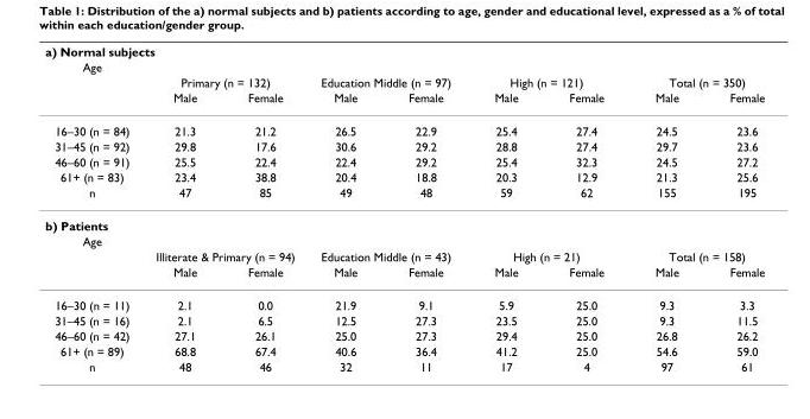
<table><thead><tr><td colspan="9">a) Normal subjects</td></tr><tr><td rowspan="3">Age</td><td></td><td></td><td></td><td></td><td></td><td></td><td></td><td></td></tr><tr><td colspan="2">Primary (n = 132)</td><td colspan="2">Education Middle (n = 97)</td><td colspan="2">High (n = 121)</td><td colspan="2">Total (n = 350)</td></tr><tr><td>Male</td><td>Female</td><td>Male</td><td>Female</td><td>Male</td><td>Female</td><td>Male</td><td>Female</td></tr></thead><tbody><tr><td>16–30 (n = 84)</td><td>21.3</td><td>21.2</td><td>26.5</td><td>22.9</td><td>25.4</td><td>27.4</td><td>24.5</td><td>23.6</td></tr><tr><td>31–45 (n = 92)</td><td>29.8</td><td>17.6</td><td>30.6</td><td>29.2</td><td>28.8</td><td>27.4</td><td>29.7</td><td>23.6</td></tr><tr><td>46–60 (n = 91)</td><td>25.5</td><td>22.4</td><td>22.4</td><td>29.2</td><td>25.4</td><td>32.3</td><td>24.5</td><td>27.2</td></tr><tr><td>61+ (n = 83)</td><td>23.4</td><td>38.8</td><td>20.4</td><td>18.8</td><td>20.3</td><td>12.9</td><td>21.3</td><td>25.6</td></tr><tr><td>n</td><td>47</td><td>85</td><td>49</td><td>48</td><td>59</td><td>62</td><td>155</td><td>195</td></tr><tr><td colspan="9">b) Patients</td></tr><tr><td colspan="9">Age</td></tr><tr><td></td><td colspan="2">Illiterate &amp; Primary (n = 94)</td><td colspan="2">Education Middle (n = 43)</td><td colspan="2">High (n = 21)</td><td colspan="2">Total (n = 158)</td></tr><tr><td></td><td>Male</td><td>Female</td><td>Male</td><td>Female</td><td>Male</td><td>Female</td><td>Male</td><td>Female</td></tr><tr><td>16–30 (n = 11)</td><td>2.1</td><td>0.0</td><td>21.9</td><td>9.1</td><td>5.9</td><td>25.0</td><td>9.3</td><td>3.3</td></tr><tr><td>31–45 (n = 16)</td><td>2.1</td><td>6.5</td><td>12.5</td><td>27.3</td><td>23.5</td><td>25.0</td><td>9.3</td><td>11.5</td></tr><tr><td>46–60 (n = 42)</td><td>27.1</td><td>26.1</td><td>25.0</td><td>27.3</td><td>29.4</td><td>25.0</td><td>26.8</td><td>26.2</td></tr><tr><td>61+ (n = 89)</td><td>68.8</td><td>67.4</td><td>40.6</td><td>36.4</td><td>41.2</td><td>25.0</td><td>54.6</td><td>59.0</td></tr><tr><td>n</td><td>48</td><td>46</td><td>32</td><td>11</td><td>17</td><td>4</td><td>97</td><td>61</td></tr></tbody></table>